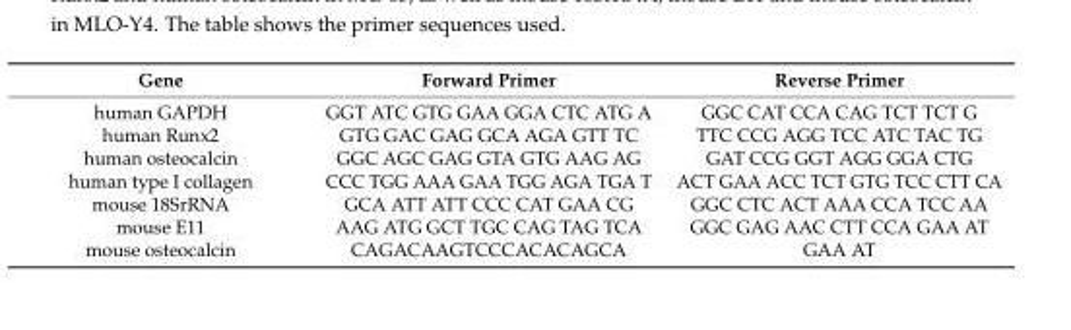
<table><thead><tr><td>Gene</td><td>Forward Primer</td><td>Reverse Primer</td></tr></thead><tbody><tr><td>human GAPDH</td><td>GGT ATC GTG GAA GGA CTC ATG A</td><td>GGC CAT CCA CAG TCT TCT G</td></tr><tr><td>human Runx2</td><td>GTG GAC GAG GCA AGA GTT TC</td><td>TTC CCG AGG TCC ATC TAC TG</td></tr><tr><td>human osteocalcin</td><td>GGC AGC GAG GTA GTG AAG AG</td><td>GAT CCG GGT AGG GGA CTG</td></tr><tr><td>human type I collagen</td><td>CCC TGG AAA GAA TGG AGA TGA T</td><td>ACT GAA ACC TCT GTG TCC CTT CA</td></tr><tr><td>mouse 18SrRNA</td><td>GCA ATT ATT CCC CAT GAA CG</td><td>GGC CTC ACT AAA CCA TCC AA</td></tr><tr><td>mouse E11</td><td>AAG ATG GCT TGC CAG TAG TCA</td><td>GGC GAG AAC CTT CCA GAA AT</td></tr><tr><td>mouse osteocalcin</td><td>CAGACAAGTCCCACACAGCA</td><td>GAA AT</td></tr></tbody></table>